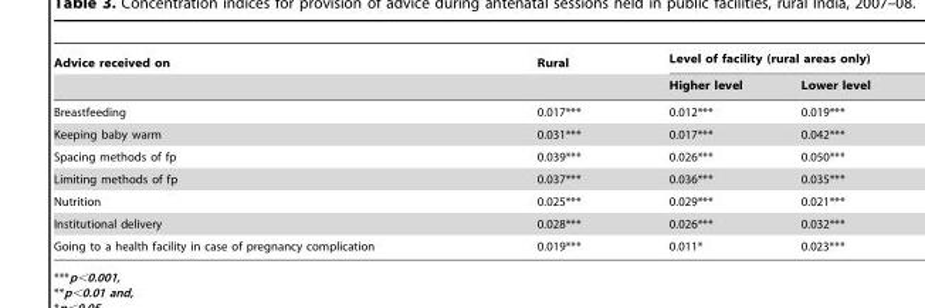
<table><thead><tr><td rowspan="2">Advice received on</td><td rowspan="2">Rural</td><td colspan="2">Level of facility (rural areas only)</td></tr><tr><td>Higher level</td><td>Lower level</td></tr></thead><tbody><tr><td>Breastfeeding</td><td>0.017***</td><td>0.012***</td><td>0.019***</td></tr><tr><td>Keeping baby warm</td><td>0.031***</td><td>0.017***</td><td>0.042***</td></tr><tr><td>Spacing methods of fp</td><td>0.039***</td><td>0.026***</td><td>0.050***</td></tr><tr><td>Limiting methods of fp</td><td>0.037***</td><td>0.036***</td><td>0.035***</td></tr><tr><td>Nutrition</td><td>0.025***</td><td>0.029***</td><td>0.021***</td></tr><tr><td>Institutional delivery</td><td>0.028***</td><td>0.026***</td><td>0.032***</td></tr><tr><td>Going to a health facility in case of pregnancy complication</td><td>0.019***</td><td>0.011*</td><td>0.023***</td></tr></tbody></table>